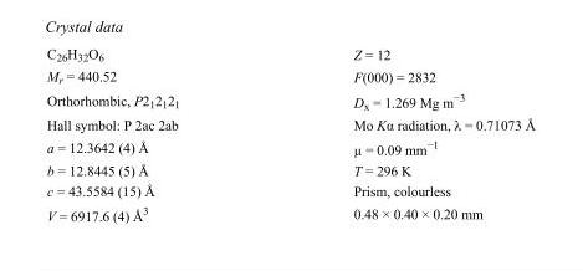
<table><tbody><tr><td>C<sub>26</sub>H<sub>32</sub>O<sub>6</sub></td><td>Z = 12</td></tr><tr><td>M<sub>r</sub> = 440.52</td><td>F(000) = 2832</td></tr><tr><td>Orthorhombic, P2<sub>1</sub>2<sub>1</sub>2<sub>1</sub></td><td>D<sub>x</sub> = 1.269 Mg m<sup>−3</sup></td></tr><tr><td>Hall symbol: P 2ac 2ab</td><td>Mo Kα radiation, λ = 0.71073 Å</td></tr><tr><td>a = 12.3642 (4) Å</td><td>µ = 0.09 mm<sup>−1</sup></td></tr><tr><td>b = 12.8445 (5) Å</td><td>T = 296 K</td></tr><tr><td>c = 43.5584 (15) Å</td><td>Prism, colourless</td></tr><tr><td>V = 6917.6 (4) Å<sup>3</sup></td><td>0.48 × 0.40 × 0.20 mm</td></tr></tbody></table>